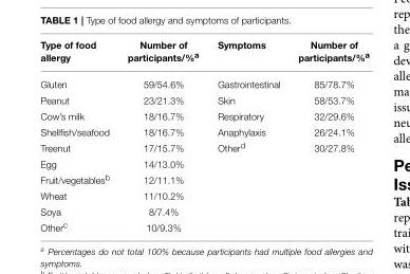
<table><thead><tr><td>Type of food allergy</td><td>Number of participants/%<sup>a</sup></td><td>Symptoms</td><td>Number of participants/%<sup>a</sup></td></tr></thead><tbody><tr><td>Gluten</td><td>59/54.6%</td><td>Gastrointestinal</td><td>85/78.7%</td></tr><tr><td>Peanut</td><td>23/21.3%</td><td>Skin</td><td>58/53.7%</td></tr><tr><td>Cow’s milk</td><td>18/16.7%</td><td>Respiratory</td><td>32/29.6%</td></tr><tr><td>Shellfish/seafood</td><td>18/16.7%</td><td>Anaphylaxis</td><td>26/24.1%</td></tr><tr><td>Treenut</td><td>17/15.7%</td><td>Other<sup>d</sup></td><td>30/27.8%</td></tr><tr><td>Egg</td><td>14/13.0%</td><td></td><td></td></tr><tr><td>Fruit/vegetables<sup>b</sup></td><td>12/11.1%</td><td></td><td></td></tr><tr><td>Wheat</td><td>11/10.2%</td><td></td><td></td></tr><tr><td>Soya</td><td>8/7.4%</td><td></td><td></td></tr><tr><td>Other<sup>c</sup></td><td>10/9.3%</td><td></td><td></td></tr></tbody></table>